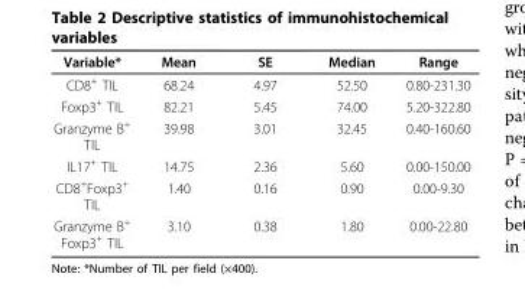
<table><thead><tr><td>Variable*</td><td>Mean</td><td>SE</td><td>Median</td><td>Range</td></tr></thead><tbody><tr><td>CD8<sup>+</sup> TIL</td><td>68.24</td><td>4.97</td><td>52.50</td><td>0.80-231.30</td></tr><tr><td>Foxp3<sup>+</sup> TIL</td><td>82.21</td><td>5.45</td><td>74.00</td><td>5.20-322.80</td></tr><tr><td>Granzyme B<sup>+</sup> TIL</td><td>39.98</td><td>3.01</td><td>32.45</td><td>0.40-160.60</td></tr><tr><td>IL17<sup>+</sup> TIL</td><td>14.75</td><td>2.36</td><td>5.60</td><td>0.00-150.00</td></tr><tr><td>CD8<sup>+</sup>Foxp3<sup>+</sup> TIL</td><td>1.40</td><td>0.16</td><td>0.90</td><td>0.00-9.30</td></tr><tr><td>Granzyme B<sup>+</sup> Foxp3<sup>+</sup> TIL</td><td>3.10</td><td>0.38</td><td>1.80</td><td>0.00-22.80</td></tr></tbody></table>